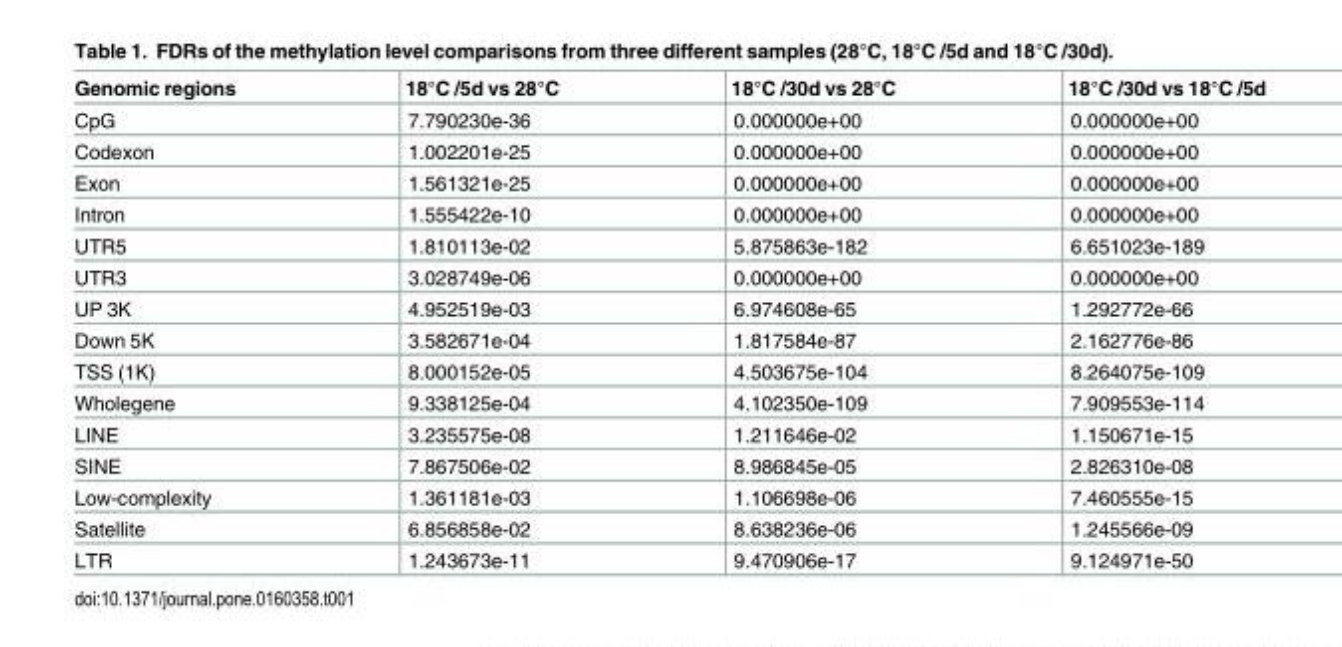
<table><thead><tr><td>Genomic regions</td><td>18°C /5d vs 28°C</td><td>18°C /30d vs 28°C</td><td>18°C /30d vs 18°C /5d</td></tr></thead><tbody><tr><td>CpG</td><td>7.790230e-36</td><td>0.000000e+00</td><td>0.000000e+00</td></tr><tr><td>Codexon</td><td>1.002201e-25</td><td>0.000000e+00</td><td>0.000000e+00</td></tr><tr><td>Exon</td><td>1.561321e-25</td><td>0.000000e+00</td><td>0.000000e+00</td></tr><tr><td>Intron</td><td>1.555422e-10</td><td>0.000000e+00</td><td>0.000000e+00</td></tr><tr><td>UTR5</td><td>1.810113e-02</td><td>5.875863e-182</td><td>6.651023e-189</td></tr><tr><td>UTR3</td><td>3.028749e-06</td><td>0.000000e+00</td><td>0.000000e+00</td></tr><tr><td>UP 3K</td><td>4.952519e-03</td><td>6.974608e-65</td><td>1.292772e-66</td></tr><tr><td>Down 5K</td><td>3.582671e-04</td><td>1.817584e-87</td><td>2.162776e-86</td></tr><tr><td>TSS (1K)</td><td>8.000152e-05</td><td>4.503675e-104</td><td>8.264075e-109</td></tr><tr><td>Wholegene</td><td>9.338125e-04</td><td>4.102350e-109</td><td>7.909553e-114</td></tr><tr><td>LINE</td><td>3.235575e-08</td><td>1.211646e-02</td><td>1.150671e-15</td></tr><tr><td>SINE</td><td>7.867506e-02</td><td>8.986845e-05</td><td>2.826310e-08</td></tr><tr><td>Low-complexity</td><td>1.361181e-03</td><td>1.106698e-06</td><td>7.460555e-15</td></tr><tr><td>Satellite</td><td>6.856858e-02</td><td>8.638236e-06</td><td>1.245566e-09</td></tr><tr><td>LTR</td><td>1.243673e-11</td><td>9.470906e-17</td><td>9.124971e-50</td></tr></tbody></table>